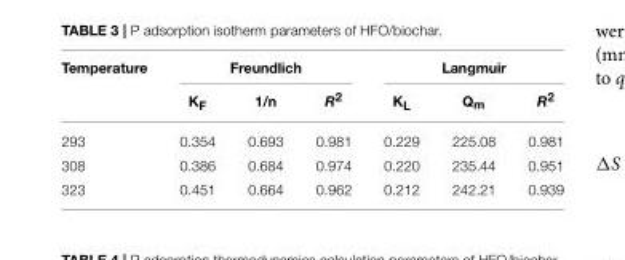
<table><thead><tr><td rowspan="2">Temperature</td><td colspan="3">Freundlich</td><td colspan="3">Langmuir</td></tr><tr><td>K<sub>F</sub></td><td>1/n</td><td>R<sup>2</sup></td><td>K<sub>L</sub></td><td>Q<sub>m</sub></td><td>R<sup>2</sup></td></tr></thead><tbody><tr><td>293</td><td>0.354</td><td>0.693</td><td>0.981</td><td>0.229</td><td>225.08</td><td>0.981</td></tr><tr><td>308</td><td>0.386</td><td>0.684</td><td>0.974</td><td>0.220</td><td>235.44</td><td>0.951</td></tr><tr><td>323</td><td>0.451</td><td>0.664</td><td>0.962</td><td>0.212</td><td>242.21</td><td>0.939</td></tr></tbody></table>